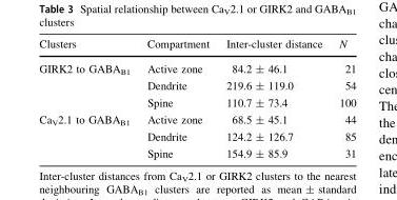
<table><thead><tr><td>Clusters</td><td>Compartment</td><td>Inter-cluster distance</td><td>N</td></tr></thead><tbody><tr><td rowspan="3">GIRK2 to GABA<sub>B1</sub></td><td>Active zone</td><td>84.2 ± 46.1</td><td>21</td></tr><tr><td>Dendrite</td><td>219.6 ± 119.0</td><td>54</td></tr><tr><td>Spine</td><td>110.7 ± 73.4</td><td>100</td></tr><tr><td rowspan="3">Ca<sub>V</sub>2.1 to GABA<sub>B1</sub></td><td>Active zone</td><td>68.5 ± 45.1</td><td>44</td></tr><tr><td>Dendrite</td><td>124.2 ± 126.7</td><td>85</td></tr><tr><td>Spine</td><td>154.9 ± 85.9</td><td>31</td></tr></tbody></table>